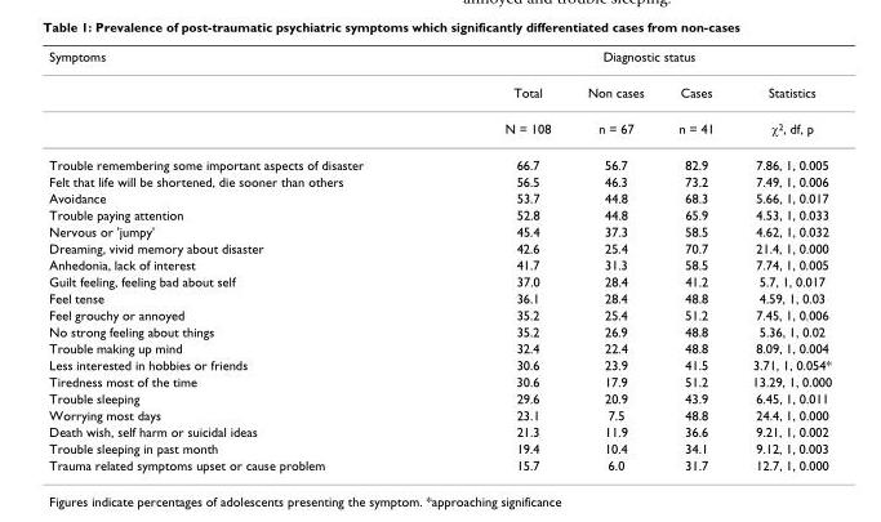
<table><thead><tr><td rowspan="2">Symptoms</td><td rowspan="2">Total</td><td colspan="2">Diagnostic status</td><td rowspan="2">Statistics</td></tr><tr><td>Non cases</td><td>Cases</td></tr></thead><tbody><tr><td></td><td>N = 108</td><td>n = 67</td><td>n = 41</td><td>χ<sup>2</sup>, df, p</td></tr><tr><td>Trouble remembering some important aspects of disaster</td><td>66.7</td><td>56.7</td><td>82.9</td><td>7.86, 1, 0.005</td></tr><tr><td>Felt that life will be shortened, die sooner than others</td><td>56.5</td><td>46.3</td><td>73.2</td><td>7.49, 1, 0.006</td></tr><tr><td>Avoidance</td><td>53.7</td><td>44.8</td><td>68.3</td><td>5.66, 1, 0.017</td></tr><tr><td>Trouble paying attention</td><td>52.8</td><td>44.8</td><td>65.9</td><td>4.53, 1, 0.033</td></tr><tr><td>Nervous or &#x27;jumpy&#x27;</td><td>45.4</td><td>37.3</td><td>58.5</td><td>4.62, 1, 0.032</td></tr><tr><td>Dreaming, vivid memory about disaster</td><td>42.6</td><td>25.4</td><td>70.7</td><td>21.4, 1, 0.000</td></tr><tr><td>Anhedonia, lack of interest</td><td>41.7</td><td>31.3</td><td>58.5</td><td>7.74, 1, 0.005</td></tr><tr><td>Guilt feeling, feeling bad about self</td><td>37.0</td><td>28.4</td><td>41.2</td><td>5.7, 1, 0.017</td></tr><tr><td>Feel tense</td><td>36.1</td><td>28.4</td><td>48.8</td><td>4.59, 1, 0.03</td></tr><tr><td>Feel grouchy or annoyed</td><td>35.2</td><td>25.4</td><td>51.2</td><td>7.45, 1, 0.006</td></tr><tr><td>No strong feeling about things</td><td>35.2</td><td>26.9</td><td>48.8</td><td>5.36, 1, 0.02</td></tr><tr><td>Trouble making up mind</td><td>32.4</td><td>22.4</td><td>48.8</td><td>8.09, 1, 0.004</td></tr><tr><td>Less interested in hobbies or friends</td><td>30.6</td><td>23.9</td><td>41.5</td><td>3.71, 1, 0.054*</td></tr><tr><td>Tiredness most of the time</td><td>30.6</td><td>17.9</td><td>51.2</td><td>13.29, 1, 0.000</td></tr><tr><td>Trouble sleeping</td><td>29.6</td><td>20.9</td><td>43.9</td><td>6.45, 1, 0.011</td></tr><tr><td>Worrying most days</td><td>23.1</td><td>7.5</td><td>48.8</td><td>24.4, 1, 0.000</td></tr><tr><td>Death wish, self harm or suicidal ideas</td><td>21.3</td><td>11.9</td><td>36.6</td><td>9.21, 1, 0.002</td></tr><tr><td>Trouble sleeping in past month</td><td>19.4</td><td>10.4</td><td>34.1</td><td>9.12, 1, 0.003</td></tr><tr><td>Trauma related symptoms upset or cause problem</td><td>15.7</td><td>6.0</td><td>31.7</td><td>12.7, 1, 0.000</td></tr></tbody></table>